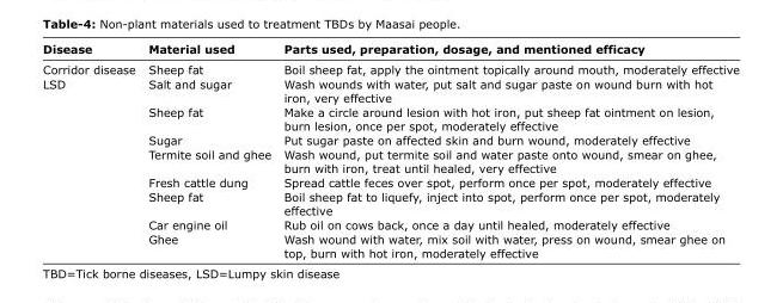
<table><thead><tr><td>Disease</td><td>Material used</td><td>Parts used, preparation, dosage, and mentioned efficacy</td></tr></thead><tbody><tr><td>Corridor disease</td><td>Sheep fat</td><td>Boil sheep fat, apply the ointment topically around mouth, moderately effective</td></tr><tr><td rowspan="8">LSD</td><td>Salt and sugar</td><td>Wash wounds with water, put salt and sugar paste on wound burn with hot iron, very effective</td></tr><tr><td>Sheep fat</td><td>Make a circle around lesion with hot iron, put sheep fat ointment on lesion, burn lesion, once per spot, moderately effective</td></tr><tr><td>Sugar</td><td>Put sugar paste on affected skin and burn wound, moderately effective</td></tr><tr><td>Termite soil and ghee</td><td>Wash wound, put termite soil and water paste onto wound, smear on ghee, burn with iron, treat until healed, very effective</td></tr><tr><td>Fresh cattle dung</td><td>Spread cattle feces over spot, perform once per spot, moderately effective</td></tr><tr><td>Sheep fat</td><td>Boil sheep fat to liquefy, inject into spot, perform once per spot, moderately effective</td></tr><tr><td>Car engine oil</td><td>Rub oil on cows back, once a day until healed, moderately effective</td></tr><tr><td>Ghee</td><td>Wash wound with water, mix soil with water, press on wound, smear ghee on top, burn with hot iron, moderately effective</td></tr></tbody></table>